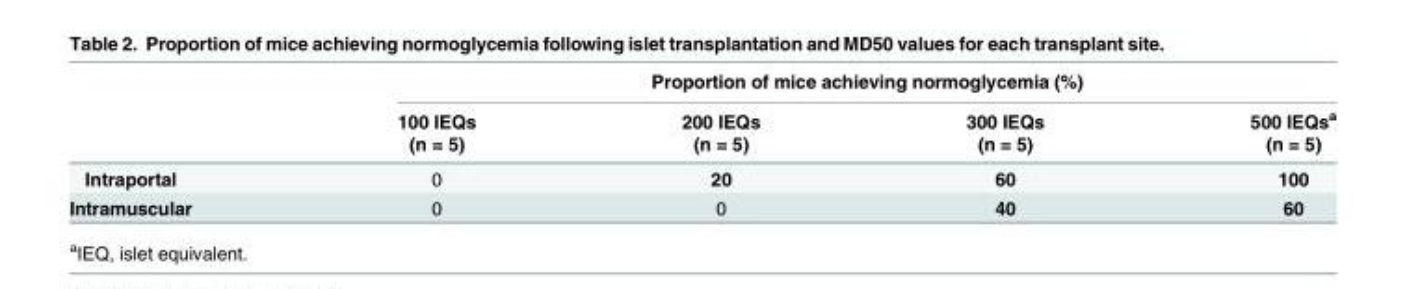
<table><thead><tr><td rowspan="3"></td><td colspan="4">Proportion of mice achieving normoglycemia (%)</td></tr><tr><td rowspan="2">100 IEQs (n = 5)</td><td rowspan="2">200 IEQs (n = 5)</td><td rowspan="2">300 IEQs (n = 5)</td><td rowspan="2">500 IEQs<sup>a</sup> (n = 5)</td></tr><tr></tr></thead><tbody><tr><td>Intraportal</td><td>0</td><td>20</td><td>60</td><td>100</td></tr><tr><td>Intramuscular</td><td>0</td><td>0</td><td>40</td><td>60</td></tr></tbody></table>